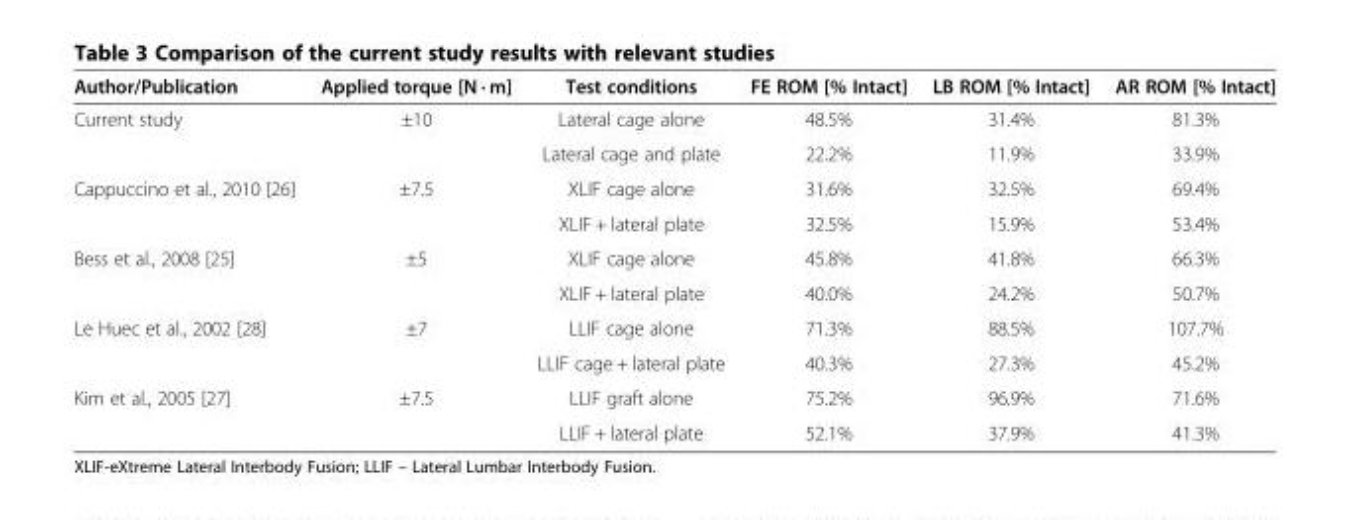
<table><thead><tr><td>Author/Publication</td><td>Applied torque [N · m]</td><td>Test conditions</td><td>FE ROM [% Intact]</td><td>LB ROM [% Intact]</td><td>AR ROM [% Intact]</td></tr></thead><tbody><tr><td rowspan="2">Current study</td><td rowspan="2">±10</td><td>Lateral cage alone</td><td>48.5%</td><td>31.4%</td><td>81.3%</td></tr><tr><td>Lateral cage and plate</td><td>22.2%</td><td>11.9%</td><td>33.9%</td></tr><tr><td rowspan="2">Cappuccino et al., 2010 [26]</td><td rowspan="2">±7.5</td><td>XLIF cage alone</td><td>31.6%</td><td>32.5%</td><td>69.4%</td></tr><tr><td>XLIF + lateral plate</td><td>32.5%</td><td>15.9%</td><td>53.4%</td></tr><tr><td rowspan="2">Bess et al., 2008 [25]</td><td rowspan="2">±5</td><td>XLIF cage alone</td><td>45.8%</td><td>41.8%</td><td>66.3%</td></tr><tr><td>XLIF + lateral plate</td><td>40.0%</td><td>24.2%</td><td>50.7%</td></tr><tr><td rowspan="2">Le Huec et al., 2002 [28]</td><td rowspan="2">±7</td><td>LLIF cage alone</td><td>71.3%</td><td>88.5%</td><td>107.7%</td></tr><tr><td>LLIF cage + lateral plate</td><td>40.3%</td><td>27.3%</td><td>45.2%</td></tr><tr><td rowspan="2">Kim et al., 2005 [27]</td><td rowspan="2">±7.5</td><td>LLIF graft alone</td><td>75.2%</td><td>96.9%</td><td>71.6%</td></tr><tr><td>LLIF + lateral plate</td><td>52.1%</td><td>37.9%</td><td>41.3%</td></tr></tbody></table>